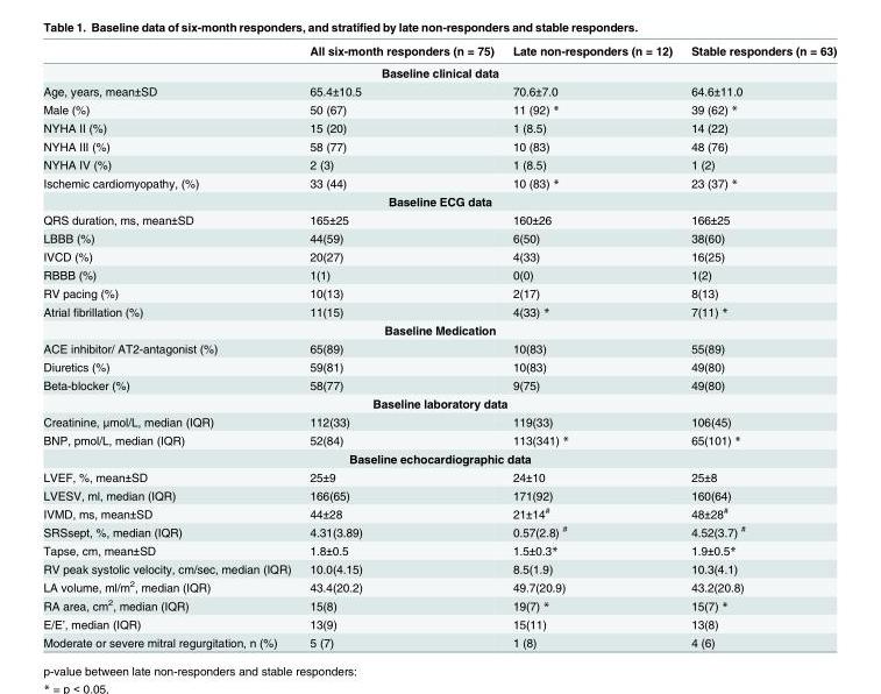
<table><thead><tr><td></td><td>All six-month responders (n = 75)</td><td>Late non-responders (n = 12)</td><td>Stable responders (n = 63)</td></tr></thead><tbody><tr><td colspan="4">Baseline clinical data</td></tr><tr><td>Age, years, mean±SD</td><td>65.4±10.5</td><td>70.6±7.0</td><td>64.6±11.0</td></tr><tr><td>Male (%)</td><td>50 (67)</td><td>11 (92) *</td><td>39 (62) *</td></tr><tr><td>NYHA II (%)</td><td>15 (20)</td><td>1 (8.5)</td><td>14 (22)</td></tr><tr><td>NYHA III (%)</td><td>58 (77)</td><td>10 (83)</td><td>48 (76)</td></tr><tr><td>NYHA IV (%)</td><td>2 (3)</td><td>1 (8.5)</td><td>1 (2)</td></tr><tr><td>Ischemic cardiomyopathy, (%)</td><td>33 (44)</td><td>10 (83) *</td><td>23 (37) *</td></tr><tr><td colspan="4">Baseline ECG data</td></tr><tr><td>QRS duration, ms, mean±SD</td><td>165±25</td><td>160±26</td><td>166±25</td></tr><tr><td>LBBB (%)</td><td>44(59)</td><td>6(50)</td><td>38(60)</td></tr><tr><td>IVCD (%)</td><td>20(27)</td><td>4(33)</td><td>16(25)</td></tr><tr><td>RBBB (%)</td><td>1(1)</td><td>0(0)</td><td>1(2)</td></tr><tr><td>RV pacing (%)</td><td>10(13)</td><td>2(17)</td><td>8(13)</td></tr><tr><td>Atrial fibrillation (%)</td><td>11(15)</td><td>4(33) *</td><td>7(11) *</td></tr><tr><td colspan="4">Baseline Medication</td></tr><tr><td>ACE inhibitor/ AT2-antagonist (%)</td><td>65(89)</td><td>10(83)</td><td>55(89)</td></tr><tr><td>Diuretics (%)</td><td>59(81)</td><td>10(83)</td><td>49(80)</td></tr><tr><td>Beta-blocker (%)</td><td>58(77)</td><td>9(75)</td><td>49(80)</td></tr><tr><td colspan="4">Baseline laboratory data</td></tr><tr><td>Creatinine, μmol/L, median (IQR)</td><td>112(33)</td><td>119(33)</td><td>106(45)</td></tr><tr><td>BNP, pmol/L, median (IQR)</td><td>52(84)</td><td>113(341) *</td><td>65(101) *</td></tr><tr><td colspan="4">Baseline echocardiographic data</td></tr><tr><td>LVEF, %, mean±SD</td><td>25±9</td><td>24±10</td><td>25±8</td></tr><tr><td>LVESV, ml, median (IQR)</td><td>166(65)</td><td>171(92)</td><td>160(64)</td></tr><tr><td>IVMD, ms, mean±SD</td><td>44±28</td><td>21±14<sup>#</sup></td><td>48±28<sup>#</sup></td></tr><tr><td>SRSsept, %, median (IQR)</td><td>4.31(3.89)</td><td>0.57(2.8) <sup>#</sup></td><td>4.52(3.7) <sup>#</sup></td></tr><tr><td>Tapse, cm, mean±SD</td><td>1.8±0.5</td><td>1.5±0.3*</td><td>1.9±0.5*</td></tr><tr><td>RV peak systolic velocity, cm/sec, median (IQR)</td><td>10.0(4.15)</td><td>8.5(1.9)</td><td>10.3(4.1)</td></tr><tr><td>LA volume, ml/m<sup>2</sup>, median (IQR)</td><td>43.4(20.2)</td><td>49.7(20.9)</td><td>43.2(20.8)</td></tr><tr><td>RA area, cm<sup>2</sup>, median (IQR)</td><td>15(8)</td><td>19(7) *</td><td>15(7) *</td></tr><tr><td>E/E’, median (IQR)</td><td>13(9)</td><td>15(11)</td><td>13(8)</td></tr><tr><td>Moderate or severe mitral regurgitation, n (%)</td><td>5 (7)</td><td>1 (8)</td><td>4 (6)</td></tr></tbody></table>